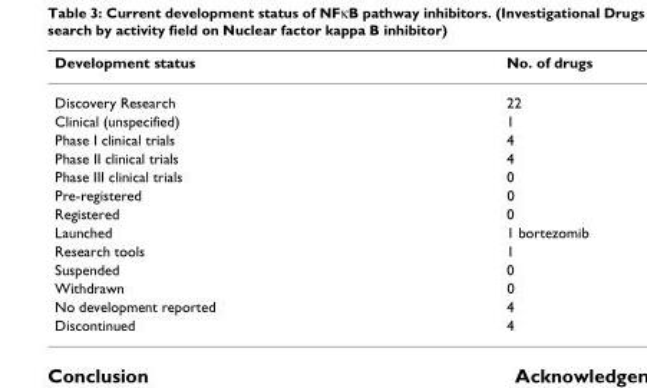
<table><thead><tr><td>Development status</td><td>No. of drugs</td></tr></thead><tbody><tr><td>Discovery Research</td><td>22</td></tr><tr><td>Clinical (unspecified)</td><td>1</td></tr><tr><td>Phase I clinical trials</td><td>4</td></tr><tr><td>Phase II clinical trials</td><td>4</td></tr><tr><td>Phase III clinical trials</td><td>0</td></tr><tr><td>Pre-registered</td><td>0</td></tr><tr><td>Registered</td><td>0</td></tr><tr><td>Launched</td><td>1 bortezomib</td></tr><tr><td>Research tools</td><td>1</td></tr><tr><td>Suspended</td><td>0</td></tr><tr><td>Withdrawn</td><td>0</td></tr><tr><td>No development reported</td><td>4</td></tr><tr><td>Discontinued</td><td>4</td></tr></tbody></table>